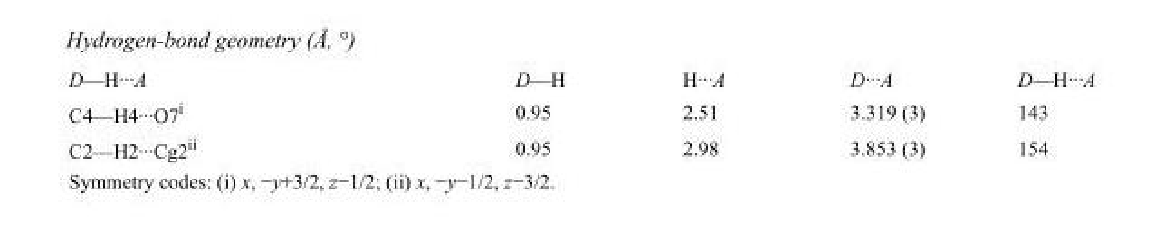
<table><tbody><tr><td>D—H···A</td><td>D—H</td><td>H···A</td><td>D···A</td><td>D—H···A</td></tr><tr><td>C4—H4···O7<sup>i</sup></td><td>0.95</td><td>2.51</td><td>3.319 (3)</td><td>143</td></tr><tr><td>C2—H2···Cg2<sup>ii</sup></td><td>0.95</td><td>2.98</td><td>3.853 (3)</td><td>154</td></tr></tbody></table>